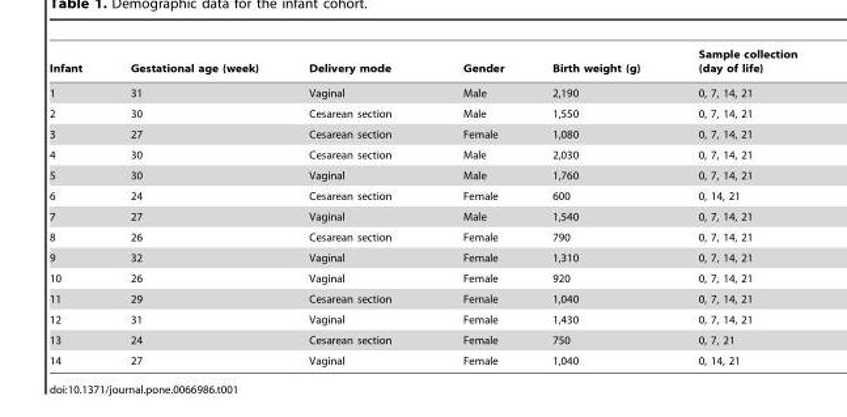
<table><thead><tr><td>Infant</td><td>Gestational age (week)</td><td>Delivery mode</td><td>Gender</td><td>Birth weight (g)</td><td>Sample collection (day of life)</td></tr></thead><tbody><tr><td>1</td><td>31</td><td>Vaginal</td><td>Male</td><td>2,190</td><td>0, 7, 14, 21</td></tr><tr><td>2</td><td>30</td><td>Cesarean section</td><td>Male</td><td>1,550</td><td>0, 7, 14, 21</td></tr><tr><td>3</td><td>27</td><td>Cesarean section</td><td>Female</td><td>1,080</td><td>0, 7, 14, 21</td></tr><tr><td>4</td><td>30</td><td>Cesarean section</td><td>Male</td><td>2,030</td><td>0, 7, 14, 21</td></tr><tr><td>5</td><td>30</td><td>Vaginal</td><td>Male</td><td>1,760</td><td>0, 7, 14, 21</td></tr><tr><td>6</td><td>24</td><td>Cesarean section</td><td>Female</td><td>600</td><td>0, 14, 21</td></tr><tr><td>7</td><td>27</td><td>Vaginal</td><td>Male</td><td>1,540</td><td>0, 7, 14, 21</td></tr><tr><td>8</td><td>26</td><td>Cesarean section</td><td>Female</td><td>790</td><td>0, 7, 14, 21</td></tr><tr><td>9</td><td>32</td><td>Vaginal</td><td>Female</td><td>1,310</td><td>0, 7, 14, 21</td></tr><tr><td>10</td><td>26</td><td>Vaginal</td><td>Female</td><td>920</td><td>0, 7, 14, 21</td></tr><tr><td>11</td><td>29</td><td>Cesarean section</td><td>Female</td><td>1,040</td><td>0, 7, 14, 21</td></tr><tr><td>12</td><td>31</td><td>Vaginal</td><td>Female</td><td>1,430</td><td>0, 7, 14, 21</td></tr><tr><td>13</td><td>24</td><td>Cesarean section</td><td>Female</td><td>750</td><td>0, 7, 21</td></tr><tr><td>14</td><td>27</td><td>Vaginal</td><td>Female</td><td>1,040</td><td>0, 14, 21</td></tr></tbody></table>